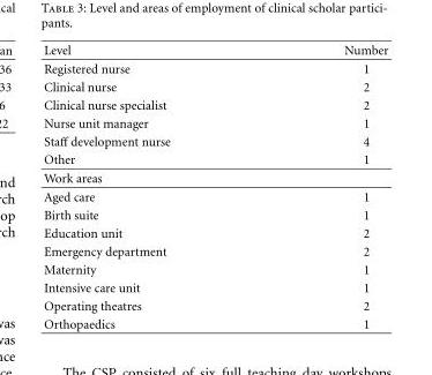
<table><thead><tr><td>Level</td><td>Number</td></tr></thead><tbody><tr><td>Registered nurse</td><td>1</td></tr><tr><td>Clinical nurse</td><td>2</td></tr><tr><td>Clinical nurse specialist</td><td>2</td></tr><tr><td>Nurse unit manager</td><td>1</td></tr><tr><td>Staff development nurse</td><td>4</td></tr><tr><td>Other</td><td>1</td></tr><tr><td colspan="2">Work areas</td></tr><tr><td>Aged care</td><td>1</td></tr><tr><td>Birth suite</td><td>1</td></tr><tr><td>Education unit</td><td>2</td></tr><tr><td>Emergency department</td><td>2</td></tr><tr><td>Maternity</td><td>1</td></tr><tr><td>Intensive care unit</td><td>1</td></tr><tr><td>Operating theatres</td><td>2</td></tr><tr><td>Orthopaedics</td><td>1</td></tr></tbody></table>